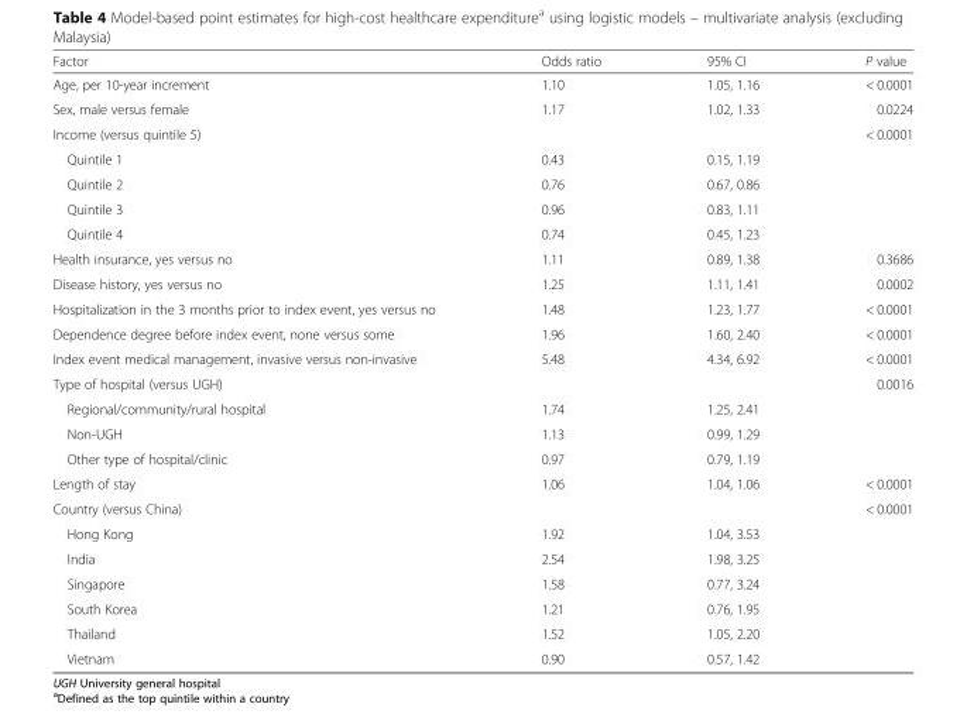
<table><thead><tr><td>Factor</td><td>Odds ratio</td><td>95% CI</td><td>P value</td></tr></thead><tbody><tr><td>Age, per 10-year increment</td><td>1.10</td><td>1.05, 1.16</td><td>&lt; 0.0001</td></tr><tr><td>Sex, male versus female</td><td>1.17</td><td>1.02, 1.33</td><td>0.0224</td></tr><tr><td>Income (versus quintile 5)</td><td></td><td></td><td>&lt; 0.0001</td></tr><tr><td>Quintile 1</td><td>0.43</td><td>0.15, 1.19</td><td></td></tr><tr><td>Quintile 2</td><td>0.76</td><td>0.67, 0.86</td><td></td></tr><tr><td>Quintile 3</td><td>0.96</td><td>0.83, 1.11</td><td></td></tr><tr><td>Quintile 4</td><td>0.74</td><td>0.45, 1.23</td><td></td></tr><tr><td>Health insurance, yes versus no</td><td>1.11</td><td>0.89, 1.38</td><td>0.3686</td></tr><tr><td>Disease history, yes versus no</td><td>1.25</td><td>1.11, 1.41</td><td>0.0002</td></tr><tr><td>Hospitalization in the 3 months prior to index event, yes versus no</td><td>1.48</td><td>1.23, 1.77</td><td>&lt; 0.0001</td></tr><tr><td>Dependence degree before index event, none versus some</td><td>1.96</td><td>1.60, 2.40</td><td>&lt; 0.0001</td></tr><tr><td>Index event medical management, invasive versus non-invasive</td><td>5.48</td><td>4.34, 6.92</td><td>&lt; 0.0001</td></tr><tr><td>Type of hospital (versus UGH)</td><td></td><td></td><td>0.0016</td></tr><tr><td>Regional/community/rural hospital</td><td>1.74</td><td>1.25, 2.41</td><td></td></tr><tr><td>Non-UGH</td><td>1.13</td><td>0.99, 1.29</td><td></td></tr><tr><td>Other type of hospital/clinic</td><td>0.97</td><td>0.79, 1.19</td><td></td></tr><tr><td>Length of stay</td><td>1.06</td><td>1.04, 1.06</td><td>&lt; 0.0001</td></tr><tr><td>Country (versus China)</td><td></td><td></td><td>&lt; 0.0001</td></tr><tr><td>Hong Kong</td><td>1.92</td><td>1.04, 3.53</td><td></td></tr><tr><td>India</td><td>2.54</td><td>1.98, 3.25</td><td></td></tr><tr><td>Singapore</td><td>1.58</td><td>0.77, 3.24</td><td></td></tr><tr><td>South Korea</td><td>1.21</td><td>0.76, 1.95</td><td></td></tr><tr><td>Thailand</td><td>1.52</td><td>1.05, 2.20</td><td></td></tr><tr><td>Vietnam</td><td>0.90</td><td>0.57, 1.42</td><td></td></tr></tbody></table>